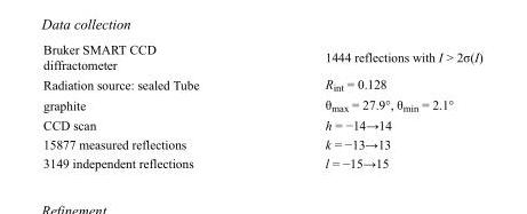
<table><tbody><tr><td>Bruker SMART CCD diffractometer</td><td>1444 reflections with I &gt; 2σ(I)</td></tr><tr><td>Radiation source: sealed Tube</td><td>R<sub>int</sub> = 0.128</td></tr><tr><td>graphite</td><td>θ<sub>max</sub> = 27.9°, θ<sub>min</sub> = 2.1°</td></tr><tr><td>CCD scan</td><td>h = −14→14</td></tr><tr><td>15877 measured reflections</td><td>k = −13→13</td></tr><tr><td>3149 independent reflections</td><td>l = −15→15</td></tr></tbody></table>